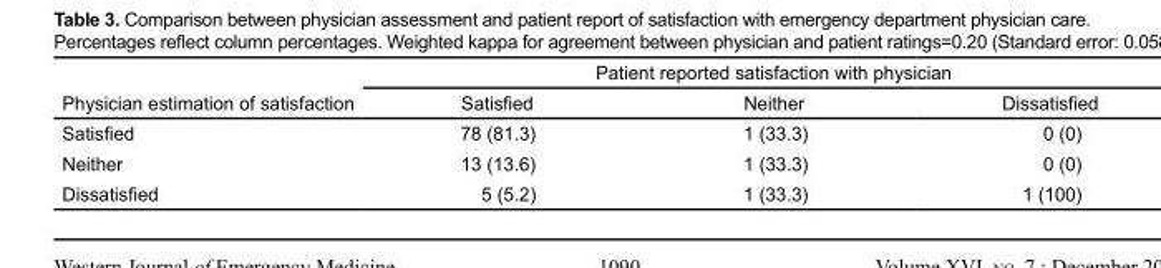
<table><thead><tr><td rowspan="2">Physician estimation of satisfaction</td><td colspan="3">Patient reported satisfaction with physician</td></tr><tr><td>Satisfied</td><td>Neither</td><td>Dissatisfied</td></tr></thead><tbody><tr><td>Satisfied</td><td>78 (81.3)</td><td>1 (33.3)</td><td>0 (0)</td></tr><tr><td>Neither</td><td>13 (13.6)</td><td>1 (33.3)</td><td>0 (0)</td></tr><tr><td>Dissatisfied</td><td>5 (5.2)</td><td>1 (33.3)</td><td>1 (100)</td></tr></tbody></table>